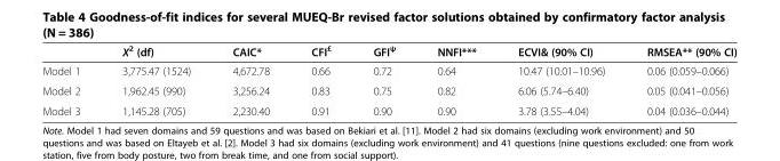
<table><thead><tr><td></td><td>X<sup>2</sup> (df)</td><td>CAIC*</td><td>CFI<sup>£</sup></td><td>GFI<sup>ψ</sup></td><td>NNFI***</td><td>ECVI&amp; (90% CI)</td><td>RMSEA** (90% CI)</td></tr></thead><tbody><tr><td>Model 1</td><td>3,775.47 (1524)</td><td>4,672.78</td><td>0.66</td><td>0.72</td><td>0.64</td><td>10.47 (10.01–10.96)</td><td>0.06 (0.059–0.066)</td></tr><tr><td>Model 2</td><td>1,962.45 (990)</td><td>3,256.24</td><td>0.83</td><td>0.75</td><td>0.82</td><td>6.06 (5.74–6.40)</td><td>0.05 (0.041–0.056)</td></tr><tr><td>Model 3</td><td>1,145.28 (705)</td><td>2,230.40</td><td>0.91</td><td>0.90</td><td>0.90</td><td>3.78 (3.55–4.04)</td><td>0.04 (0.036–0.044)</td></tr></tbody></table>